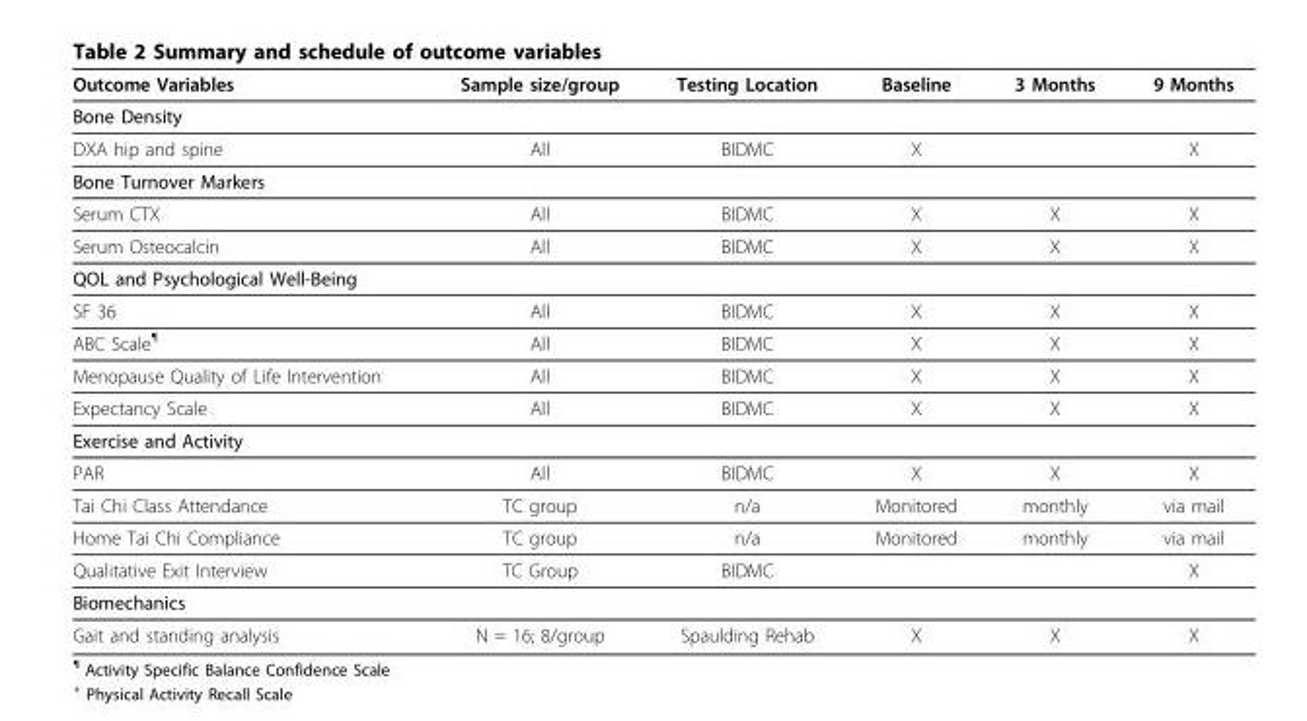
<table><thead><tr><td>Outcome Variables</td><td>Sample size/group</td><td>Testing Location</td><td>Baseline</td><td>3 Months</td><td>9 Months</td></tr></thead><tbody><tr><td colspan="6">Bone Density</td></tr><tr><td>DXA hip and spine</td><td>All</td><td>BIDMC</td><td>X</td><td></td><td>X</td></tr><tr><td colspan="6">Bone Turnover Markers</td></tr><tr><td>Serum CTX</td><td>All</td><td>BIDMC</td><td>X</td><td>X</td><td>X</td></tr><tr><td>Serum Osteocalcin</td><td>All</td><td>BIDMC</td><td>X</td><td>X</td><td>X</td></tr><tr><td colspan="6">QOL and Psychological Well-Being</td></tr><tr><td>SF 36</td><td>All</td><td>BIDMC</td><td>X</td><td>X</td><td>X</td></tr><tr><td>ABC Scale<sup>¶</sup></td><td>All</td><td>BIDMC</td><td>X</td><td>X</td><td>X</td></tr><tr><td>Menopause Quality of Life Intervention</td><td>All</td><td>BIDMC</td><td>X</td><td>X</td><td>X</td></tr><tr><td>Expectancy Scale</td><td>All</td><td>BIDMC</td><td>X</td><td>X</td><td>X</td></tr><tr><td colspan="6">Exercise and Activity</td></tr><tr><td>PAR</td><td>All</td><td>BIDMC</td><td>X</td><td>X</td><td>X</td></tr><tr><td>Tai Chi Class Attendance</td><td>TC group</td><td>n/a</td><td>Monitored</td><td>monthly</td><td>via mail</td></tr><tr><td>Home Tai Chi Compliance</td><td>TC group</td><td>n/a</td><td>Monitored</td><td>monthly</td><td>via mail</td></tr><tr><td>Qualitative Exit Interview</td><td>TC Group</td><td>BIDMC</td><td></td><td></td><td>X</td></tr><tr><td colspan="6">Biomechanics</td></tr><tr><td>Gait and standing analysis</td><td>N = 16; 8/group</td><td>Spaulding Rehab</td><td>X</td><td>X</td><td>X</td></tr></tbody></table>